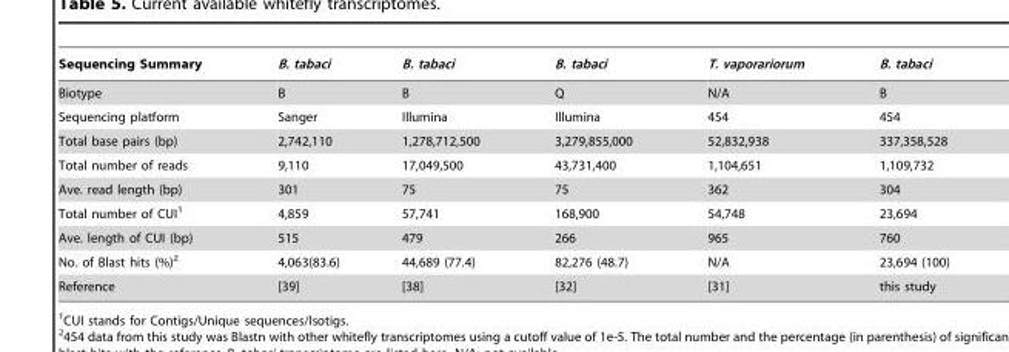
<table><thead><tr><td>Sequencing Summary</td><td>B. tabaci</td><td>B. tabaci</td><td>B. tabaci</td><td>T. vaporariorum</td><td>B. tabaci</td></tr></thead><tbody><tr><td>Biotype</td><td>B</td><td>B</td><td>Q</td><td>N/A</td><td>B</td></tr><tr><td>Sequencing platform</td><td>Sanger</td><td>Illumina</td><td>Illumina</td><td>454</td><td>454</td></tr><tr><td>Total base pairs (bp)</td><td>2,742,110</td><td>1,278,712,500</td><td>3,279,855,000</td><td>52,832,938</td><td>337,358,528</td></tr><tr><td>Total number of reads</td><td>9,110</td><td>17,049,500</td><td>43,731,400</td><td>1,104,651</td><td>1,109,732</td></tr><tr><td>Ave. read length (bp)</td><td>301</td><td>75</td><td>75</td><td>362</td><td>304</td></tr><tr><td>Total number of CUI<sup>1</sup></td><td>4,859</td><td>57,741</td><td>168,900</td><td>54,748</td><td>23,694</td></tr><tr><td>Ave. length of CUI (bp)</td><td>515</td><td>479</td><td>266</td><td>965</td><td>760</td></tr><tr><td>No. of Blast hits (%)<sup>2</sup></td><td>4,063(83.6)</td><td>44,689 (77.4)</td><td>82,276 (48.7)</td><td>N/A</td><td>23,694 (100)</td></tr><tr><td>Reference</td><td>[39]</td><td>[38]</td><td>[32]</td><td>[31]</td><td>this study</td></tr></tbody></table>